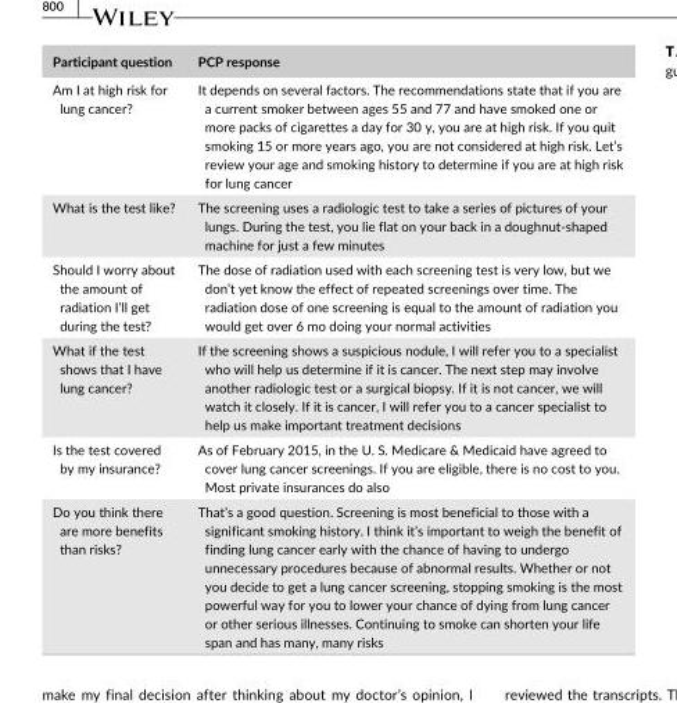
<table><thead><tr><td>Participant question</td><td>PCP response</td></tr></thead><tbody><tr><td>Am I at high risk for lung cancer?</td><td>It depends on several factors. The recommendations state that if you are a current smoker between ages 55 and 77 and have smoked one or more packs of cigarettes a day for 30 y, you are at high risk. If you quit smoking 15 or more years ago, you are not considered at high risk. Let’s review your age and smoking history to determine if you are at high risk for lung cancer</td></tr><tr><td>What is the test like?</td><td>The screening uses a radiologic test to take a series of pictures of your lungs. During the test, you lie flat on your back in a doughnut- shaped machine for just a few minutes</td></tr><tr><td>Should I worry about the amount of radiation I’ll get during the test?</td><td>The dose of radiation used with each screening test is very low, but we don’t yet know the effect of repeated screenings over time. The radiation dose of one screening is equal to the amount of radiation you would get over 6 mo doing your normal activities</td></tr><tr><td>What if the test shows that I have lung cancer?</td><td>If the screening shows a suspicious nodule, I will refer you to a specialist who will help us determine if it is cancer. The next step may involve another radiologic test or a surgical biopsy. If it is not cancer, we will watch it closely. If it is cancer, I will refer you to a cancer specialist to help us make important treatment decisions</td></tr><tr><td>Is the test covered by my insurance?</td><td>As of February 2015, in the U. S. Medicare &amp; Medicaid have agreed to cover lung cancer screenings. If you are eligible, there is no cost to you. Most private insurances do also</td></tr><tr><td>Do you think there are more benefits than risks?</td><td>That’s a good question. Screening is most beneficial to those with a significant smoking history. I think it’s important to weigh the benefit of finding lung cancer early with the chance of having to undergo unnecessary procedures because of abnormal results. Whether or not you decide to get a lung cancer screening, stopping smoking is the most powerful way for you to lower your chance of dying from lung cancer or other serious illnesses. Continuing to smoke can shorten your life span and has many, many risks</td></tr></tbody></table>